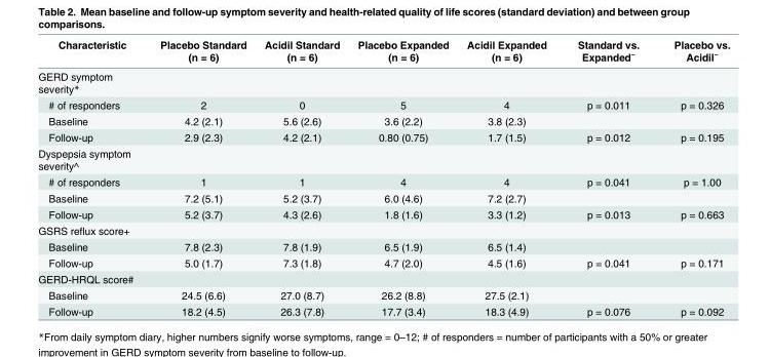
<table><thead><tr><td>Characteristic</td><td>Placebo Standard (n = 6)</td><td>Acidil Standard (n = 6)</td><td>Placebo Expanded (n = 6)</td><td>Acidil Expanded (n = 6)</td><td>Standard vs. Expanded<sup>~</sup></td><td>Placebo vs. Acidil<sup>~</sup></td></tr></thead><tbody><tr><td colspan="7">GERD symptom severity*</td></tr><tr><td># of responders</td><td>2</td><td>0</td><td>5</td><td>4</td><td>p = 0.011</td><td>p = 0.326</td></tr><tr><td>Baseline</td><td>4.2 (2.1)</td><td>5.6 (2.6)</td><td>3.6 (2.2)</td><td>3.8 (2.3)</td><td></td><td></td></tr><tr><td>Follow-up</td><td>2.9 (2.3)</td><td>4.2 (2.1)</td><td>0.80 (0.75)</td><td>1.7 (1.5)</td><td>p = 0.012</td><td>p = 0.195</td></tr><tr><td colspan="7">Dyspepsia symptom severity^</td></tr><tr><td># of responders</td><td>1</td><td>1</td><td>4</td><td>4</td><td>p = 0.041</td><td>p = 1.00</td></tr><tr><td>Baseline</td><td>7.2 (5.1)</td><td>5.2 (3.7)</td><td>6.0 (4.6)</td><td>7.2 (2.7)</td><td></td><td></td></tr><tr><td>Follow-up</td><td>5.2 (3.7)</td><td>4.3 (2.6)</td><td>1.8 (1.6)</td><td>3.3 (1.2)</td><td>p = 0.013</td><td>p = 0.663</td></tr><tr><td colspan="7">GSRS reflux score+</td></tr><tr><td>Baseline</td><td>7.8 (2.3)</td><td>7.8 (1.9)</td><td>6.5 (1.9)</td><td>6.5 (1.4)</td><td></td><td></td></tr><tr><td>Follow-up</td><td>5.0 (1.7)</td><td>7.3 (1.8)</td><td>4.7 (2.0)</td><td>4.5 (1.6)</td><td>p = 0.041</td><td>p = 0.171</td></tr><tr><td colspan="7">GERD-HRQL score#</td></tr><tr><td>Baseline</td><td>24.5 (6.6)</td><td>27.0 (8.7)</td><td>26.2 (8.8)</td><td>27.5 (2.1)</td><td></td><td></td></tr><tr><td>Follow-up</td><td>18.2 (4.5)</td><td>26.3 (7.8)</td><td>17.7 (3.4)</td><td>18.3 (4.9)</td><td>p = 0.076</td><td>p = 0.092</td></tr></tbody></table>